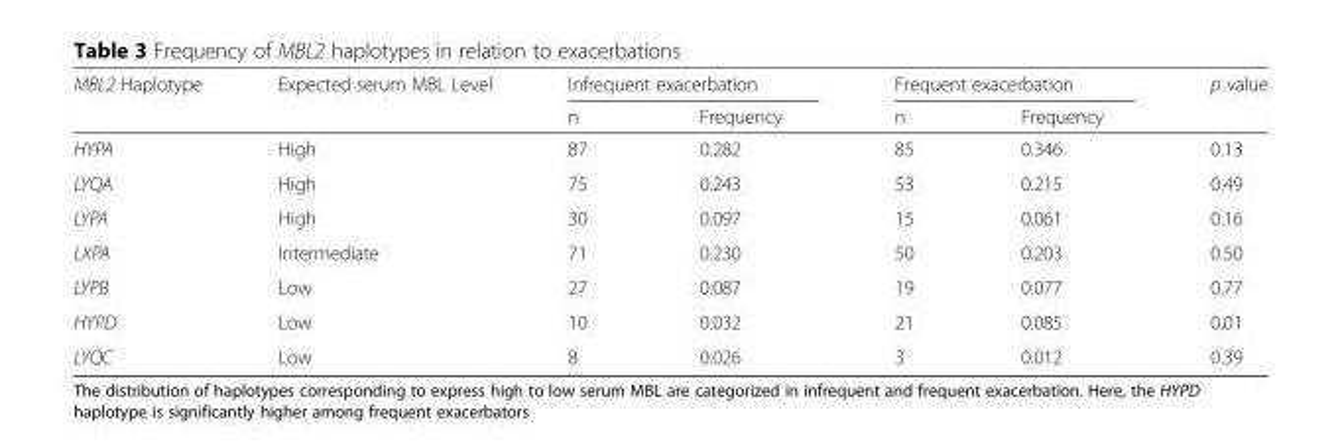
<table><thead><tr><td rowspan="2">MBL2 Haplotype</td><td rowspan="2">Expected serum MBL Level</td><td colspan="2">Infrequent exacerbation</td><td colspan="2">Frequent exacerbation</td><td rowspan="2">p value</td></tr><tr><td>n</td><td>Frequency</td><td>n</td><td>Frequency</td></tr></thead><tbody><tr><td>HYPA</td><td>High</td><td>87</td><td>0.282</td><td>85</td><td>0.346</td><td>0.13</td></tr><tr><td>LYQA</td><td>High</td><td>75</td><td>0.243</td><td>53</td><td>0.215</td><td>0.49</td></tr><tr><td>LYPA</td><td>High</td><td>30</td><td>0.097</td><td>15</td><td>0.061</td><td>0.16</td></tr><tr><td>LXPA</td><td>Intermediate</td><td>71</td><td>0.230</td><td>50</td><td>0.203</td><td>0.50</td></tr><tr><td>LYPB</td><td>Low</td><td>27</td><td>0.087</td><td>19</td><td>0.077</td><td>0.77</td></tr><tr><td>HYPD</td><td>Low</td><td>10</td><td>0.032</td><td>21</td><td>0.085</td><td>0.01</td></tr><tr><td>LYQC</td><td>Low</td><td>8</td><td>0.026</td><td>3</td><td>0.012</td><td>0.39</td></tr></tbody></table>